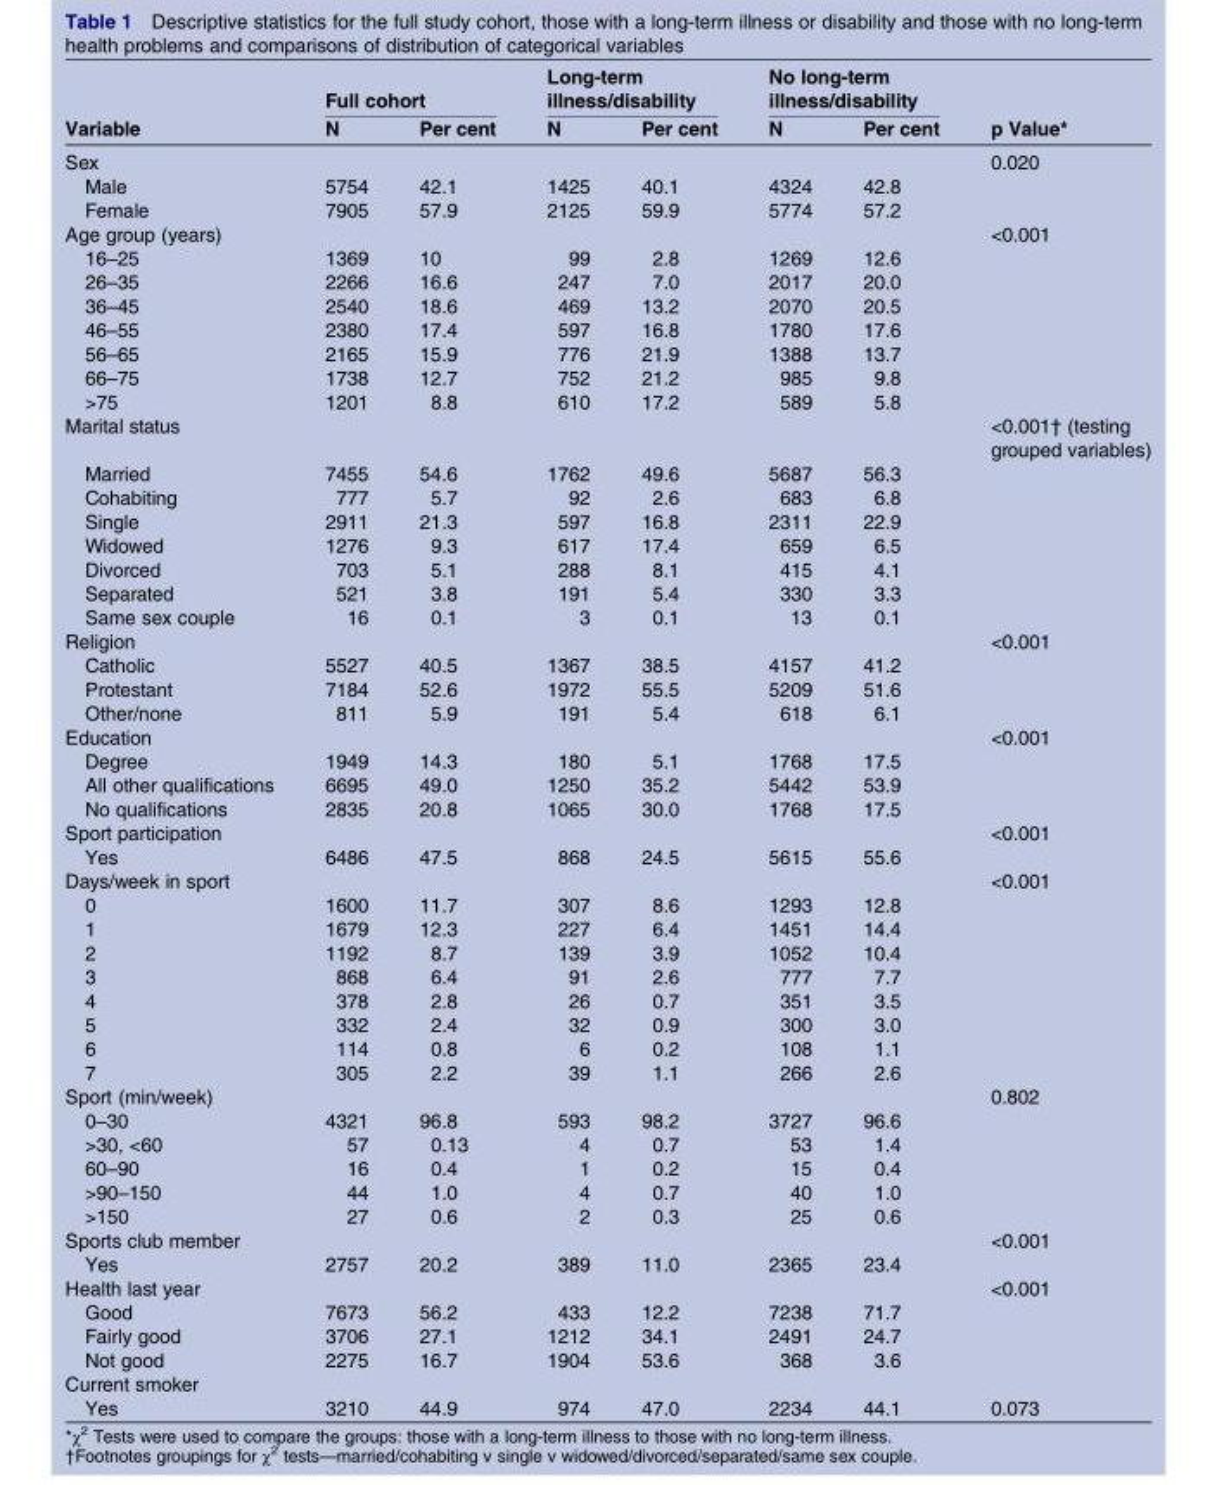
<table><thead><tr><td rowspan="2">Variable</td><td colspan="2">Full cohort</td><td colspan="2">Long-term illness/disability</td><td colspan="2">No long-term illness/disability</td><td rowspan="2">p Value*</td></tr><tr><td>N</td><td>Per cent</td><td>N</td><td>Per cent</td><td>N</td><td>Per cent</td></tr></thead><tbody><tr><td>Sex</td><td></td><td></td><td></td><td></td><td></td><td></td><td>0.020</td></tr><tr><td>Male</td><td>5754</td><td>42.1</td><td>1425</td><td>40.1</td><td>4324</td><td>42.8</td><td rowspan="2"></td></tr><tr><td>Female</td><td>7905</td><td>57.9</td><td>2125</td><td>59.9</td><td>5774</td><td>57.2</td></tr><tr><td>Age group (years)</td><td></td><td></td><td></td><td></td><td></td><td></td><td>&lt;0.001</td></tr><tr><td>16–25</td><td>1369</td><td>10</td><td>99</td><td>2.8</td><td>1269</td><td>12.6</td><td rowspan="7"></td></tr><tr><td>26–35</td><td>2266</td><td>16.6</td><td>247</td><td>7.0</td><td>2017</td><td>20.0</td></tr><tr><td>36–45</td><td>2540</td><td>18.6</td><td>469</td><td>13.2</td><td>2070</td><td>20.5</td></tr><tr><td>46–55</td><td>2380</td><td>17.4</td><td>597</td><td>16.8</td><td>1780</td><td>17.6</td></tr><tr><td>56–65</td><td>2165</td><td>15.9</td><td>776</td><td>21.9</td><td>1388</td><td>13.7</td></tr><tr><td>66–75</td><td>1738</td><td>12.7</td><td>752</td><td>21.2</td><td>985</td><td>9.8</td></tr><tr><td>&gt;75</td><td>1201</td><td>8.8</td><td>610</td><td>17.2</td><td>589</td><td>5.8</td></tr><tr><td>Marital status</td><td></td><td></td><td></td><td></td><td></td><td></td><td>&lt;0.001† (testing grouped variables)</td></tr><tr><td>Married</td><td>7455</td><td>54.6</td><td>1762</td><td>49.6</td><td>5687</td><td>56.3</td><td rowspan="7"></td></tr><tr><td>Cohabiting</td><td>777</td><td>5.7</td><td>92</td><td>2.6</td><td>683</td><td>6.8</td></tr><tr><td>Single</td><td>2911</td><td>21.3</td><td>597</td><td>16.8</td><td>2311</td><td>22.9</td></tr><tr><td>Widowed</td><td>1276</td><td>9.3</td><td>617</td><td>17.4</td><td>659</td><td>6.5</td></tr><tr><td>Divorced</td><td>703</td><td>5.1</td><td>288</td><td>8.1</td><td>415</td><td>4.1</td></tr><tr><td>Separated</td><td>521</td><td>3.8</td><td>191</td><td>5.4</td><td>330</td><td>3.3</td></tr><tr><td>Same sex couple</td><td>16</td><td>0.1</td><td>3</td><td>0.1</td><td>13</td><td>0.1</td></tr><tr><td>Religion</td><td></td><td></td><td></td><td></td><td></td><td></td><td>&lt;0.001</td></tr><tr><td>Catholic</td><td>5527</td><td>40.5</td><td>1367</td><td>38.5</td><td>4157</td><td>41.2</td><td rowspan="3"></td></tr><tr><td>Protestant</td><td>7184</td><td>52.6</td><td>1972</td><td>55.5</td><td>5209</td><td>51.6</td></tr><tr><td>Other/none</td><td>811</td><td>5.9</td><td>191</td><td>5.4</td><td>618</td><td>6.1</td></tr><tr><td>Education</td><td></td><td></td><td></td><td></td><td></td><td></td><td>&lt;0.001</td></tr><tr><td>Degree</td><td>1949</td><td>14.3</td><td>180</td><td>5.1</td><td>1768</td><td>17.5</td><td rowspan="3"></td></tr><tr><td>All other qualifications</td><td>6695</td><td>49.0</td><td>1250</td><td>35.2</td><td>5442</td><td>53.9</td></tr><tr><td>No qualifications</td><td>2835</td><td>20.8</td><td>1065</td><td>30.0</td><td>1768</td><td>17.5</td></tr><tr><td>Sport participation</td><td></td><td></td><td></td><td></td><td></td><td></td><td>&lt;0.001</td></tr><tr><td>Yes</td><td>6486</td><td>47.5</td><td>868</td><td>24.5</td><td>5615</td><td>55.6</td><td></td></tr><tr><td>Days/week in sport</td><td></td><td></td><td></td><td></td><td></td><td></td><td>&lt;0.001</td></tr><tr><td>0</td><td>1600</td><td>11.7</td><td>307</td><td>8.6</td><td>1293</td><td>12.8</td><td rowspan="8"></td></tr><tr><td>1</td><td>1679</td><td>12.3</td><td>227</td><td>6.4</td><td>1451</td><td>14.4</td></tr><tr><td>2</td><td>1192</td><td>8.7</td><td>139</td><td>3.9</td><td>1052</td><td>10.4</td></tr><tr><td>3</td><td>868</td><td>6.4</td><td>91</td><td>2.6</td><td>777</td><td>7.7</td></tr><tr><td>4</td><td>378</td><td>2.8</td><td>26</td><td>0.7</td><td>351</td><td>3.5</td></tr><tr><td>5</td><td>332</td><td>2.4</td><td>32</td><td>0.9</td><td>300</td><td>3.0</td></tr><tr><td>6</td><td>114</td><td>0.8</td><td>6</td><td>0.2</td><td>108</td><td>1.1</td></tr><tr><td>7</td><td>305</td><td>2.2</td><td>39</td><td>1.1</td><td>266</td><td>2.6</td></tr><tr><td>Sport (min/week)</td><td></td><td></td><td></td><td></td><td></td><td></td><td>0.802</td></tr><tr><td>0–30</td><td>4321</td><td>96.8</td><td>593</td><td>98.2</td><td>3727</td><td>96.6</td><td rowspan="5"></td></tr><tr><td>&gt;30, &lt;60</td><td>57</td><td>0.13</td><td>4</td><td>0.7</td><td>53</td><td>1.4</td></tr><tr><td>60–90</td><td>16</td><td>0.4</td><td>1</td><td>0.2</td><td>15</td><td>0.4</td></tr><tr><td>&gt;90–150</td><td>44</td><td>1.0</td><td>4</td><td>0.7</td><td>40</td><td>1.0</td></tr><tr><td>&gt;150</td><td>27</td><td>0.6</td><td>2</td><td>0.3</td><td>25</td><td>0.6</td></tr><tr><td>Sports club member</td><td></td><td></td><td></td><td></td><td></td><td></td><td>&lt;0.001</td></tr><tr><td>Yes</td><td>2757</td><td>20.2</td><td>389</td><td>11.0</td><td>2365</td><td>23.4</td><td></td></tr><tr><td>Health last year</td><td></td><td></td><td></td><td></td><td></td><td></td><td>&lt;0.001</td></tr><tr><td>Good</td><td>7673</td><td>56.2</td><td>433</td><td>12.2</td><td>7238</td><td>71.7</td><td rowspan="3"></td></tr><tr><td>Fairly good</td><td>3706</td><td>27.1</td><td>1212</td><td>34.1</td><td>2491</td><td>24.7</td></tr><tr><td>Not good</td><td>2275</td><td>16.7</td><td>1904</td><td>53.6</td><td>368</td><td>3.6</td></tr><tr><td colspan="8">Current smoker</td></tr><tr><td>Yes</td><td>3210</td><td>44.9</td><td>974</td><td>47.0</td><td>2234</td><td>44.1</td><td>0.073</td></tr></tbody></table>